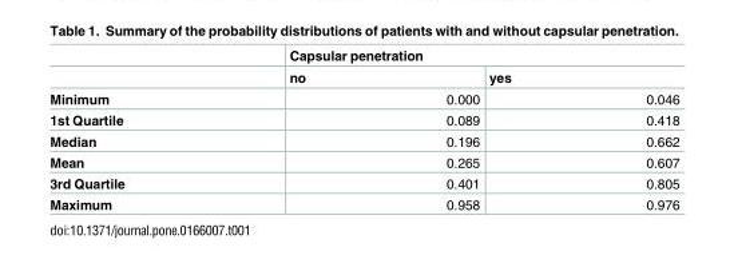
<table><thead><tr><td rowspan="2"></td><td colspan="2">Capsular penetration</td></tr><tr><td>no</td><td>yes</td></tr></thead><tbody><tr><td>Minimum</td><td>0.000</td><td>0.046</td></tr><tr><td>1st Quartile</td><td>0.089</td><td>0.418</td></tr><tr><td>Median</td><td>0.196</td><td>0.662</td></tr><tr><td>Mean</td><td>0.265</td><td>0.607</td></tr><tr><td>3rd Quartile</td><td>0.401</td><td>0.805</td></tr><tr><td>Maximum</td><td>0.958</td><td>0.976</td></tr></tbody></table>